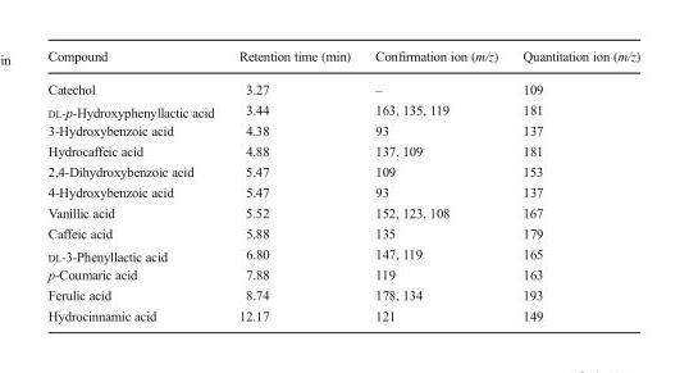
<table><thead><tr><td>Compound</td><td>Retention time (min)</td><td>Confirmation ion (m/z)</td><td>Quantitation ion (m/z)</td></tr></thead><tbody><tr><td>Catechol</td><td>3.27</td><td>–</td><td>109</td></tr><tr><td>DL-p-Hydroxyphenyllactic acid</td><td>3.44</td><td>163, 135, 119</td><td>181</td></tr><tr><td>3-Hydroxybenzoic acid</td><td>4.38</td><td>93</td><td>137</td></tr><tr><td>Hydrocaffeic acid</td><td>4.88</td><td>137, 109</td><td>181</td></tr><tr><td>2,4-Dihydroxybenzoic acid</td><td>5.47</td><td>109</td><td>153</td></tr><tr><td>4-Hydroxybenzoic acid</td><td>5.47</td><td>93</td><td>137</td></tr><tr><td>Vanillic acid</td><td>5.52</td><td>152, 123, 108</td><td>167</td></tr><tr><td>Caffeic acid</td><td>5.88</td><td>135</td><td>179</td></tr><tr><td>DL-3-Phenyllactic acid</td><td>6.80</td><td>147, 119</td><td>165</td></tr><tr><td>p-Coumaric acid</td><td>7.88</td><td>119</td><td>163</td></tr><tr><td>Ferulic acid</td><td>8.74</td><td>178, 134</td><td>193</td></tr><tr><td>Hydrocinnamic acid</td><td>12.17</td><td>121</td><td>149</td></tr></tbody></table>